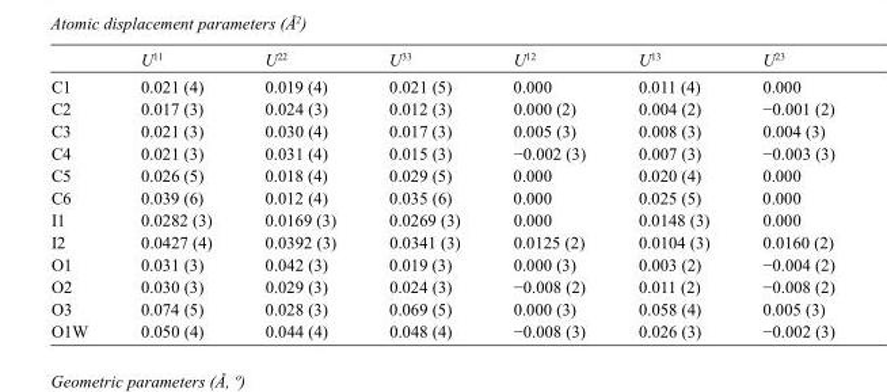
<table><thead><tr><td></td><td>U<sup>11</sup></td><td>U<sup>22</sup></td><td>U<sup>33</sup></td><td>U<sup>12</sup></td><td>U<sup>13</sup></td><td>U<sup>23</sup></td></tr></thead><tbody><tr><td>C1</td><td>0.021 (4)</td><td>0.019 (4)</td><td>0.021 (5)</td><td>0.000</td><td>0.011 (4)</td><td>0.000</td></tr><tr><td>C2</td><td>0.017 (3)</td><td>0.024 (3)</td><td>0.012 (3)</td><td>0.000 (2)</td><td>0.004 (2)</td><td>−0.001 (2)</td></tr><tr><td>C3</td><td>0.021 (3)</td><td>0.030 (4)</td><td>0.017 (3)</td><td>0.005 (3)</td><td>0.008 (3)</td><td>0.004 (3)</td></tr><tr><td>C4</td><td>0.021 (3)</td><td>0.031 (4)</td><td>0.015 (3)</td><td>−0.002 (3)</td><td>0.007 (3)</td><td>−0.003 (3)</td></tr><tr><td>C5</td><td>0.026 (5)</td><td>0.018 (4)</td><td>0.029 (5)</td><td>0.000</td><td>0.020 (4)</td><td>0.000</td></tr><tr><td>C6</td><td>0.039 (6)</td><td>0.012 (4)</td><td>0.035 (6)</td><td>0.000</td><td>0.025 (5)</td><td>0.000</td></tr><tr><td>I1</td><td>0.0282 (3)</td><td>0.0169 (3)</td><td>0.0269 (3)</td><td>0.000</td><td>0.0148 (3)</td><td>0.000</td></tr><tr><td>I2</td><td>0.0427 (4)</td><td>0.0392 (3)</td><td>0.0341 (3)</td><td>0.0125 (2)</td><td>0.0104 (3)</td><td>0.0160 (2)</td></tr><tr><td>O1</td><td>0.031 (3)</td><td>0.042 (3)</td><td>0.019 (3)</td><td>0.000 (3)</td><td>0.003 (2)</td><td>−0.004 (2)</td></tr><tr><td>O2</td><td>0.030 (3)</td><td>0.029 (3)</td><td>0.024 (3)</td><td>−0.008 (2)</td><td>0.011 (2)</td><td>−0.008 (2)</td></tr><tr><td>O3</td><td>0.074 (5)</td><td>0.028 (3)</td><td>0.069 (5)</td><td>0.000 (3)</td><td>0.058 (4)</td><td>0.005 (3)</td></tr><tr><td>O1W</td><td>0.050 (4)</td><td>0.044 (4)</td><td>0.048 (4)</td><td>−0.008 (3)</td><td>0.026 (3)</td><td>−0.002 (3)</td></tr></tbody></table>